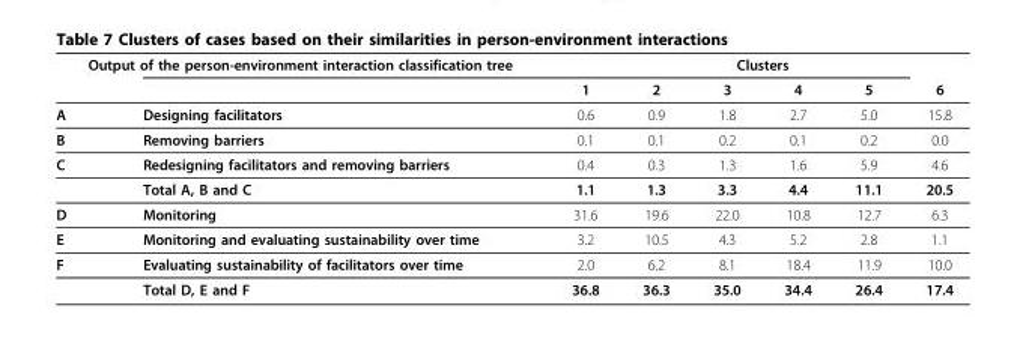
<table><thead><tr><td colspan="2">Output of the person-environment interaction classification tree</td><td colspan="6">Clusters</td></tr><tr><td></td><td></td><td>1</td><td>2</td><td>3</td><td>4</td><td>5</td><td>6</td></tr></thead><tbody><tr><td>A</td><td>Designing facilitators</td><td>0.6</td><td>0.9</td><td>1.8</td><td>2.7</td><td>5.0</td><td>15.8</td></tr><tr><td>B</td><td>Removing barriers</td><td>0.1</td><td>0.1</td><td>0.2</td><td>0.1</td><td>0.2</td><td>0.0</td></tr><tr><td rowspan="2">C</td><td>Redesigning facilitators and removing barriers</td><td>0.4</td><td>0.3</td><td>1.3</td><td>1.6</td><td>5.9</td><td>4.6</td></tr><tr><td>Total A, B and C</td><td>1.1</td><td>1.3</td><td>3.3</td><td>4.4</td><td>11.1</td><td>20.5</td></tr><tr><td>D</td><td>Monitoring</td><td>31.6</td><td>19.6</td><td>22.0</td><td>10.8</td><td>12.7</td><td>6.3</td></tr><tr><td>E</td><td>Monitoring and evaluating sustainability over time</td><td>3.2</td><td>10.5</td><td>4.3</td><td>5.2</td><td>2.8</td><td>1.1</td></tr><tr><td rowspan="2">F</td><td>Evaluating sustainability of facilitators over time</td><td>2.0</td><td>6.2</td><td>8.1</td><td>18.4</td><td>11.9</td><td>10.0</td></tr><tr><td>Total D, E and F</td><td>36.8</td><td>36.3</td><td>35.0</td><td>34.4</td><td>26.4</td><td>17.4</td></tr></tbody></table>